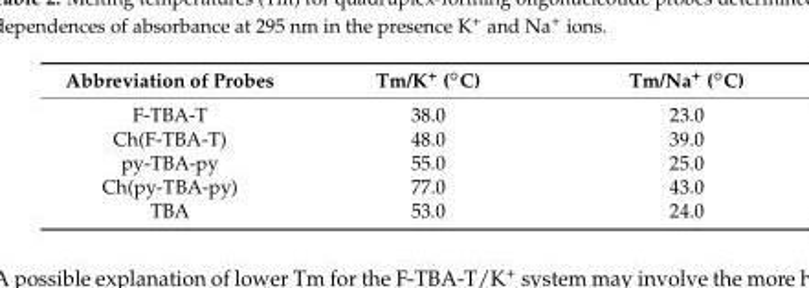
<table><thead><tr><td>Abbreviation of Probes</td><td>Tm/K+ (◦C)</td><td>Tm/Na+ (◦C)</td></tr></thead><tbody><tr><td>F-TBA-T</td><td>38.0</td><td>23.0</td></tr><tr><td>Ch(F-TBA-T)</td><td>48.0</td><td>39.0</td></tr><tr><td>py-TBA-py</td><td>55.0</td><td>25.0</td></tr><tr><td>Ch(py-TBA-py)</td><td>77.0</td><td>43.0</td></tr><tr><td>TBA</td><td>53.0</td><td>24.0</td></tr></tbody></table>